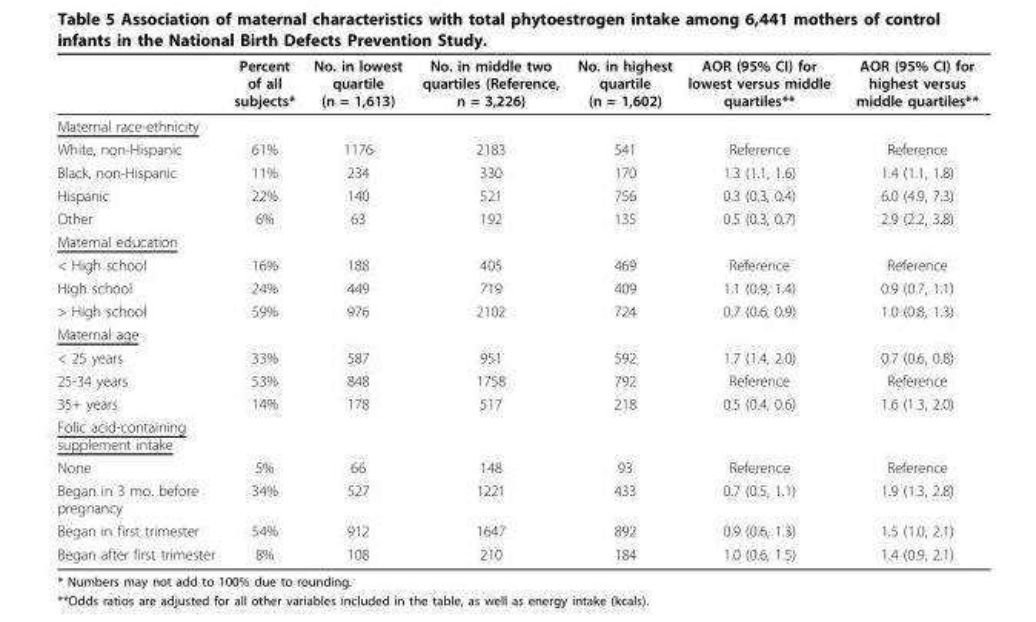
<table><thead><tr><td></td><td>Percent of all subjects*</td><td>No. in lowest quartile (n = 1,613)</td><td>No. in middle two quartiles (Reference, n = 3,226)</td><td>No. in highest quartile (n = 1,602)</td><td>AOR (95% CI) for lowest versus middle quartiles**</td><td>AOR (95% CI) for highest versus middle quartiles**</td></tr></thead><tbody><tr><td colspan="7">Maternal race-ethnicity</td></tr><tr><td>White, non-Hispanic</td><td>61%</td><td>1176</td><td>2183</td><td>541</td><td>Reference</td><td>Reference</td></tr><tr><td>Black, non-Hispanic</td><td>11%</td><td>234</td><td>330</td><td>170</td><td>1.3 (1.1, 1.6)</td><td>1.4 (1.1, 1.8)</td></tr><tr><td>Hispanic</td><td>22%</td><td>140</td><td>521</td><td>756</td><td>0.3 (0.3, 0.4)</td><td>6.0 (4.9, 7.3)</td></tr><tr><td>Other</td><td>6%</td><td>63</td><td>192</td><td>135</td><td>0.5 (0.3, 0.7)</td><td>2.9 (2.2, 3.8)</td></tr><tr><td colspan="7">Maternal education</td></tr><tr><td>&lt; High school</td><td>16%</td><td>188</td><td>405</td><td>469</td><td>Reference</td><td>Reference</td></tr><tr><td>High school</td><td>24%</td><td>449</td><td>719</td><td>409</td><td>1.1 (0.9, 1.4)</td><td>0.9 (0.7, 1.1)</td></tr><tr><td>&gt; High school</td><td>59%</td><td>976</td><td>2102</td><td>724</td><td>0.7 (0.6, 0.9)</td><td>1.0 (0.8, 1.3)</td></tr><tr><td colspan="7">Maternal age</td></tr><tr><td>&lt; 25 years</td><td>33%</td><td>587</td><td>951</td><td>592</td><td>1.7 (1.4, 2.0)</td><td>0.7 (0.6, 0.8)</td></tr><tr><td>25-34 years</td><td>53%</td><td>848</td><td>1758</td><td>792</td><td>Reference</td><td>Reference</td></tr><tr><td>35+ years</td><td>14%</td><td>178</td><td>517</td><td>218</td><td>0.5 (0.4, 0.6)</td><td>1.6 (1.3, 2.0)</td></tr><tr><td colspan="7">Folic acid-containing supplement intake</td></tr><tr><td>None</td><td>5%</td><td>66</td><td>148</td><td>93</td><td>Reference</td><td>Reference</td></tr><tr><td>Began in 3 mo. before pregnancy</td><td>34%</td><td>527</td><td>1221</td><td>433</td><td>0.7 (0.5, 1.1)</td><td>1.9 (1.3, 2.8)</td></tr><tr><td>Began in first trimester</td><td>54%</td><td>912</td><td>1647</td><td>892</td><td>0.9 (0.6, 1.3)</td><td>1.5 (1.0, 2.1)</td></tr><tr><td>Began after first trimester</td><td>8%</td><td>108</td><td>210</td><td>184</td><td>1.0 (0.6, 1.5)</td><td>1.4 (0.9, 2.1)</td></tr></tbody></table>